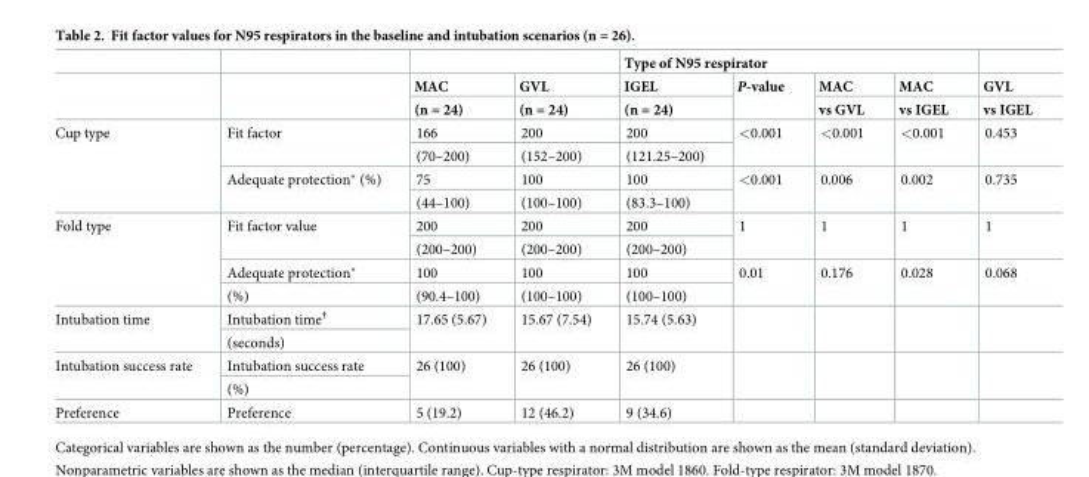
<table><thead><tr><td rowspan="3"></td><td rowspan="3"></td><td rowspan="3">MAC (n = 24)</td><td rowspan="3">GVL (n = 24)</td><td colspan="4">Type of N95 respirator</td><td rowspan="3">GVL vs IGEL</td></tr><tr><td rowspan="2">IGEL (n = 24)</td><td rowspan="2">P-value</td><td rowspan="2">MAC vs GVL</td><td rowspan="2">MAC vs IGEL</td></tr><tr></tr></thead><tbody><tr><td rowspan="4">Cup type</td><td rowspan="2">Fit factor</td><td>166</td><td>200</td><td>200</td><td rowspan="2">&lt;0.001</td><td rowspan="2">&lt;0.001</td><td rowspan="2">&lt;0.001</td><td rowspan="2">0.453</td></tr><tr><td>(70–200)</td><td>(152–200)</td><td>(121.25–200)</td></tr><tr><td rowspan="2">Adequate protection* (%)</td><td>75</td><td>100</td><td>100</td><td rowspan="2">&lt;0.001</td><td rowspan="2">0.006</td><td rowspan="2">0.002</td><td rowspan="2">0.735</td></tr><tr><td>(44–100)</td><td>(100–100)</td><td>(83.3–100)</td></tr><tr><td rowspan="4">Fold type</td><td rowspan="2">Fit factor value</td><td>200</td><td>200</td><td>200</td><td rowspan="2">1</td><td rowspan="2">1</td><td rowspan="2">1</td><td rowspan="2">1</td></tr><tr><td>(200–200)</td><td>(200–200)</td><td>(200–200)</td></tr><tr><td>Adequate protection*</td><td>100</td><td>100</td><td>100</td><td rowspan="2">0.01</td><td rowspan="2">0.176</td><td rowspan="2">0.028</td><td rowspan="2">0.068</td></tr><tr><td>(%)</td><td>(90.4–100)</td><td>(100–100)</td><td>(100–100)</td></tr><tr><td rowspan="2">Intubation time</td><td>Intubation time<sup>†</sup></td><td rowspan="2">17.65 (5.67)</td><td rowspan="2">15.67 (7.54)</td><td rowspan="2">15.74 (5.63)</td><td rowspan="2"></td><td rowspan="2"></td><td rowspan="2"></td><td rowspan="2"></td></tr><tr><td>(seconds)</td></tr><tr><td rowspan="2">Intubation success rate</td><td>Intubation success rate</td><td rowspan="2">26 (100)</td><td rowspan="2">26 (100)</td><td rowspan="2">26 (100)</td><td rowspan="2"></td><td rowspan="2"></td><td rowspan="2"></td><td rowspan="2"></td></tr><tr><td>(%)</td></tr><tr><td>Preference</td><td>Preference</td><td>5 (19.2)</td><td>12 (46.2)</td><td>9 (34.6)</td><td></td><td></td><td></td><td></td></tr></tbody></table>